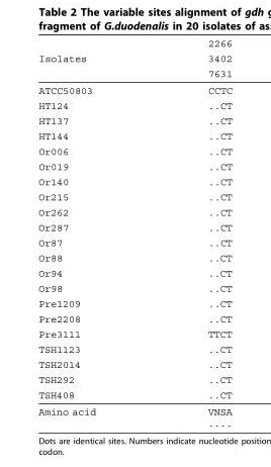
<table><thead><tr><td rowspan="3">Isolates</td><td rowspan="3">2266 3402 7631</td></tr><tr></tr><tr></tr></thead><tbody><tr><td>ATCC50803</td><td>CCTC</td></tr><tr><td>HT124</td><td>..CT</td></tr><tr><td>HT137</td><td>..CT</td></tr><tr><td>HT144</td><td>..CT</td></tr><tr><td>Or006</td><td>..CT</td></tr><tr><td>Or019</td><td>..CT</td></tr><tr><td>Or140</td><td>..CT</td></tr><tr><td>Or215</td><td>..CT</td></tr><tr><td>Or262</td><td>..CT</td></tr><tr><td>Or287</td><td>..CT</td></tr><tr><td>Or87</td><td>..CT</td></tr><tr><td>Or88</td><td>..CT</td></tr><tr><td>Or94</td><td>..CT</td></tr><tr><td>Or98</td><td>..CT</td></tr><tr><td>Pre1209</td><td>..CT</td></tr><tr><td>Pre2208</td><td>..CT</td></tr><tr><td>Pre3111</td><td>TTCT</td></tr><tr><td>TSH1123</td><td>..CT</td></tr><tr><td>TSH2014</td><td>..CT</td></tr><tr><td>TSH292</td><td>..CT</td></tr><tr><td>TSH408</td><td>..CT</td></tr><tr><td>Amino acid</td><td>VNSA ....</td></tr></tbody></table>